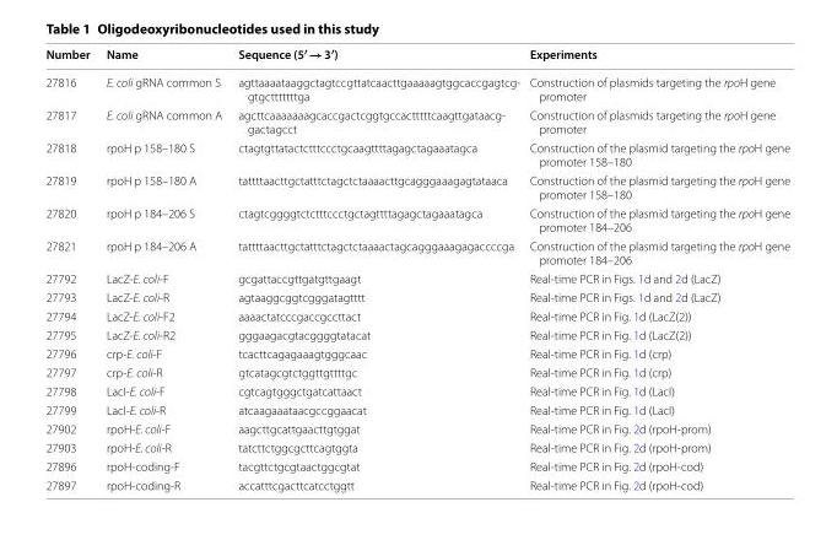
<table><thead><tr><td>Number</td><td>Name</td><td>Sequence (5′ → 3′)</td><td>Experiments</td></tr></thead><tbody><tr><td>27816</td><td>E. coli gRNA common S</td><td>agttaaaataaggctagtccgttatcaacttgaaaaagtggcaccgagtcg- gtgctttttttga</td><td>Construction of plasmids targeting the rpoH gene promoter</td></tr><tr><td>27817</td><td>E. coli gRNA common A</td><td>agcttcaaaaaaagcaccgactcggtgccactttttcaagttgataacg- gactagcct</td><td>Construction of plasmids targeting the rpoH gene promoter</td></tr><tr><td>27818</td><td>rpoH p 158–180 S</td><td>ctagtgttatactctttccctgcaagttttagagctagaaatagca</td><td>Construction of the plasmid targeting the rpoH gene promoter 158–180</td></tr><tr><td>27819</td><td>rpoH p 158–180 A</td><td>tattttaacttgctatttctagctctaaaacttgcagggaaagagtataaca</td><td>Construction of the plasmid targeting the rpoH gene promoter 158–180</td></tr><tr><td>27820</td><td>rpoH p 184–206 S</td><td>ctagtcggggtctctttccctgctagttttagagctagaaatagca</td><td>Construction of the plasmid targeting the rpoH gene promoter 184–206</td></tr><tr><td>27821</td><td>rpoH p 184–206 A</td><td>tattttaacttgctatttctagctctaaaactagcagggaaagagaccccga</td><td>Construction of the plasmid targeting the rpoH gene promoter 184–206</td></tr><tr><td>27792</td><td>LacZ-E. coli-F</td><td>gcgattaccgttgatgttgaagt</td><td>Real-time PCR in Figs. 1d and 2d (LacZ)</td></tr><tr><td>27793</td><td>LacZ-E. coli-R</td><td>agtaaggcggtcgggatagtttt</td><td>Real-time PCR in Figs. 1d and 2d (LacZ)</td></tr><tr><td>27794</td><td>LacZ-E. coli-F2</td><td>aaaactatcccgaccgccttact</td><td>Real-time PCR in Fig. 1d (LacZ(2))</td></tr><tr><td>27795</td><td>LacZ-E. coli-R2</td><td>gggaagacgtacggggtatacat</td><td>Real-time PCR in Fig. 1d (LacZ(2))</td></tr><tr><td>27796</td><td>crp-E. coli-F</td><td>tcacttcagagaaagtgggcaac</td><td>Real-time PCR in Fig. 1d (crp)</td></tr><tr><td>27797</td><td>crp-E. coli-R</td><td>gtcatagcgtctggttgttttgc</td><td>Real-time PCR in Fig. 1d (crp)</td></tr><tr><td>27798</td><td>LacI-E. coli-F</td><td>cgtcagtgggctgatcattaact</td><td>Real-time PCR in Fig. 1d (LacI)</td></tr><tr><td>27799</td><td>LacI-E. coli-R</td><td>atcaagaaataacgccggaacat</td><td>Real-time PCR in Fig. 1d (LacI)</td></tr><tr><td>27902</td><td>rpoH-E. coli-F</td><td>aagcttgcattgaacttgtggat</td><td>Real-time PCR in Fig. 2d (rpoH-prom)</td></tr><tr><td>27903</td><td>rpoH-E. coli-R</td><td>tatcttctggcgcttcagtggta</td><td>Real-time PCR in Fig. 2d (rpoH-prom)</td></tr><tr><td>27896</td><td>rpoH-coding-F</td><td>tacgttctgcgtaactggcgtat</td><td>Real-time PCR in Fig. 2d (rpoH-cod)</td></tr><tr><td>27897</td><td>rpoH-coding-R</td><td>accatttcgacttcatcctggtt</td><td>Real-time PCR in Fig. 2d (rpoH-cod)</td></tr></tbody></table>